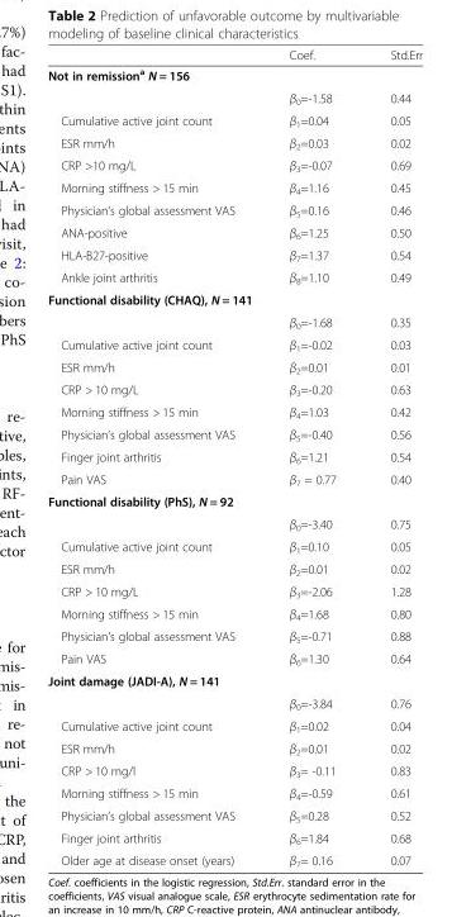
<table><thead><tr><td></td><td>Coef.</td><td>Std.Err</td></tr></thead><tbody><tr><td colspan="3">Not in remission<sup>a</sup> N = 156</td></tr><tr><td></td><td>β<sub>0</sub>=-1.58</td><td>0.44</td></tr><tr><td>Cumulative active joint count</td><td>β<sub>1</sub>=0.04</td><td>0.05</td></tr><tr><td>ESR mm/h</td><td>β<sub>2</sub>=0.03</td><td>0.02</td></tr><tr><td>CRP &gt;10 mg/L</td><td>β<sub>3</sub>=-0.07</td><td>0.69</td></tr><tr><td>Morning stiffness &gt; 15 min</td><td>β<sub>4</sub>=1.16</td><td>0.45</td></tr><tr><td>Physician’s global assessment VAS</td><td>β<sub>5</sub>=0.16</td><td>0.46</td></tr><tr><td>ANA-positive</td><td>β<sub>6</sub>=1.25</td><td>0.50</td></tr><tr><td>HLA-B27-positive</td><td>β<sub>7</sub>=1.37</td><td>0.54</td></tr><tr><td>Ankle joint arthritis</td><td>β<sub>8</sub>=1.10</td><td>0.49</td></tr><tr><td colspan="3">Functional disability (CHAQ), N = 141</td></tr><tr><td></td><td>β<sub>0</sub>=-1.68</td><td>0.35</td></tr><tr><td>Cumulative active joint count</td><td>β<sub>1</sub>=-0.02</td><td>0.03</td></tr><tr><td>ESR mm/h</td><td>β<sub>2</sub>=0.01</td><td>0.01</td></tr><tr><td>CRP &gt; 10 mg/L</td><td>β<sub>3</sub>=-0.20</td><td>0.63</td></tr><tr><td>Morning stiffness &gt; 15 min</td><td>β<sub>4</sub>=1.03</td><td>0.42</td></tr><tr><td>Physician’s global assessment VAS</td><td>β<sub>5</sub>=-0.40</td><td>0.56</td></tr><tr><td>Finger joint arthritis</td><td>β<sub>6</sub>=1.21</td><td>0.54</td></tr><tr><td>Pain VAS</td><td>β<sub>7</sub> = 0.77</td><td>0.40</td></tr><tr><td colspan="3">Functional disability (PhS), N = 92</td></tr><tr><td></td><td>β<sub>0</sub>=-3.40</td><td>0.75</td></tr><tr><td>Cumulative active joint count</td><td>β<sub>1</sub>=0.10</td><td>0.05</td></tr><tr><td>ESR mm/h</td><td>β<sub>2</sub>=0.01</td><td>0.02</td></tr><tr><td>CRP &gt; 10 mg/L</td><td>β<sub>3</sub>=-2.06</td><td>1.28</td></tr><tr><td>Morning stiffness &gt; 15 min</td><td>β<sub>4</sub>=1.68</td><td>0.80</td></tr><tr><td>Physician’s global assessment VAS</td><td>β<sub>5</sub>=-0.71</td><td>0.88</td></tr><tr><td>Pain VAS</td><td>β<sub>6</sub>=1.30</td><td>0.64</td></tr><tr><td colspan="3">Joint damage (JADI-A), N = 141</td></tr><tr><td></td><td>β<sub>0</sub>=-3.84</td><td>0.76</td></tr><tr><td>Cumulative active joint count</td><td>β<sub>1</sub>=0.02</td><td>0.04</td></tr><tr><td>ESR mm/h</td><td>β<sub>2</sub>=0.01</td><td>0.02</td></tr><tr><td>CRP &gt; 10 mg/l</td><td>β<sub>3</sub>= -0.11</td><td>0.83</td></tr><tr><td>Morning stiffness &gt; 15 min</td><td>β<sub>4</sub>=-0.59</td><td>0.61</td></tr><tr><td>Physician’s global assessment VAS</td><td>β<sub>5</sub>=0.28</td><td>0.52</td></tr><tr><td>Finger joint arthritis</td><td>β<sub>6</sub>=1.84</td><td>0.68</td></tr><tr><td>Older age at disease onset (years)</td><td>β<sub>7</sub>= 0.16</td><td>0.07</td></tr></tbody></table>